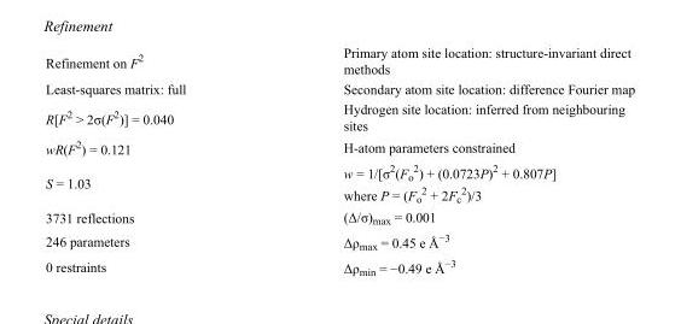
<table><tbody><tr><td>Refinement on F<sup>2</sup></td><td>Primary atom site location: structure-invariant direct methods</td></tr><tr><td>Least-squares matrix: full</td><td>Secondary atom site location: difference Fourier map</td></tr><tr><td>R[F<sup>2</sup> &gt; 2σ(F<sup>2</sup>)] = 0.040</td><td>Hydrogen site location: inferred from neighbouring sites</td></tr><tr><td>wR(F<sup>2</sup>) = 0.121</td><td>H-atom parameters constrained</td></tr><tr><td>S = 1.03</td><td>w = 1/[σ<sup>2</sup>(F<sub>o</sub> <sup>2</sup>) + (0.0723P)<sup>2</sup> + 0.807P] where P = (F<sub>o</sub> <sup>2</sup> + 2F<sub>c</sub> <sup>2</sup>)/3</td></tr><tr><td>3731 reflections</td><td>(Δ/σ)<sub>max</sub> = 0.001</td></tr><tr><td>246 parameters</td><td>Δρ<sub>max</sub> = 0.45 e Å<sup>−3</sup></td></tr><tr><td>0 restraints</td><td>Δρ<sub>min</sub> = −0.49 e Å<sup>−3</sup></td></tr></tbody></table>